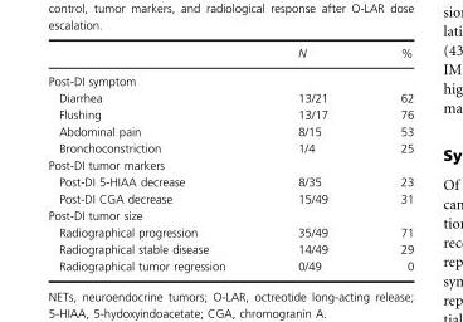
<table><thead><tr><td></td><td>N</td><td>%</td></tr></thead><tbody><tr><td colspan="3">Post-DI symptom</td></tr><tr><td>Diarrhea</td><td>13/21</td><td>62</td></tr><tr><td>Flushing</td><td>13/17</td><td>76</td></tr><tr><td>Abdominal pain</td><td>8/15</td><td>53</td></tr><tr><td>Bronchoconstriction</td><td>1/4</td><td>25</td></tr><tr><td colspan="3">Post-DI tumor markers</td></tr><tr><td>Post-DI 5-HIAA decrease</td><td>8/35</td><td>23</td></tr><tr><td>Post-DI CGA decrease</td><td>15/49</td><td>31</td></tr><tr><td colspan="3">Post-DI tumor size</td></tr><tr><td>Radiographical progression</td><td>35/49</td><td>71</td></tr><tr><td>Radiographical stable disease</td><td>14/49</td><td>29</td></tr><tr><td>Radiographical tumor regression</td><td>0/49</td><td>0</td></tr></tbody></table>